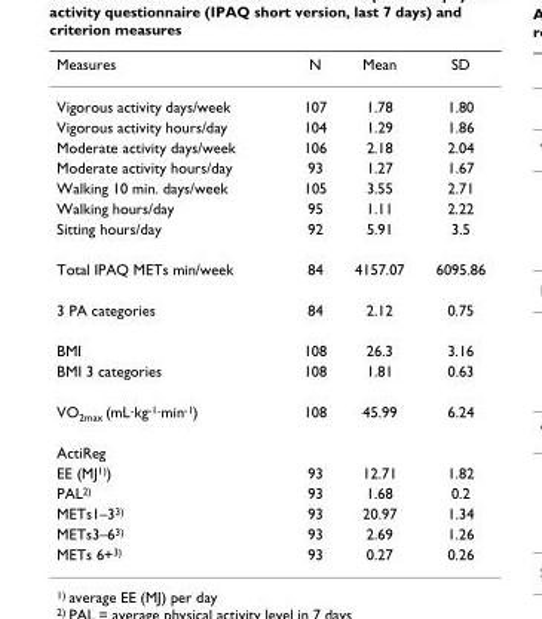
<table><thead><tr><td>Measures</td><td>N</td><td>Mean</td><td>SD</td></tr></thead><tbody><tr><td>Vigorous activity days/week</td><td>107</td><td>1.78</td><td>1.80</td></tr><tr><td>Vigorous activity hours/day</td><td>104</td><td>1.29</td><td>1.86</td></tr><tr><td>Moderate activity days/week</td><td>106</td><td>2.18</td><td>2.04</td></tr><tr><td>Moderate activity hours/day</td><td>93</td><td>1.27</td><td>1.67</td></tr><tr><td>Walking 10 min. days/week</td><td>105</td><td>3.55</td><td>2.71</td></tr><tr><td>Walking hours/day</td><td>95</td><td>1.11</td><td>2.22</td></tr><tr><td>Sitting hours/day</td><td>92</td><td>5.91</td><td>3.5</td></tr><tr><td>Total IPAQ METs min/week</td><td>84</td><td>4157.07</td><td>6095.86</td></tr><tr><td>3 PA categories</td><td>84</td><td>2.12</td><td>0.75</td></tr><tr><td>BMI</td><td>108</td><td>26.3</td><td>3.16</td></tr><tr><td>BMI 3 categories</td><td>108</td><td>1.81</td><td>0.63</td></tr><tr><td>VO<sub>2max</sub> (mL·kg<sup>-1</sup>·min<sup>-1</sup>)</td><td>108</td><td>45.99</td><td>6.24</td></tr><tr><td colspan="4">ActiReg</td></tr><tr><td>EE (MJ<sup>1)</sup>)</td><td>93</td><td>12.71</td><td>1.82</td></tr><tr><td>PAL<sup>2)</sup></td><td>93</td><td>1.68</td><td>0.2</td></tr><tr><td>METs1–3<sup>3)</sup></td><td>93</td><td>20.97</td><td>1.34</td></tr><tr><td>METs3–6<sup>3)</sup></td><td>93</td><td>2.69</td><td>1.26</td></tr><tr><td>METs 6+<sup>3)</sup></td><td>93</td><td>0.27</td><td>0.26</td></tr></tbody></table>